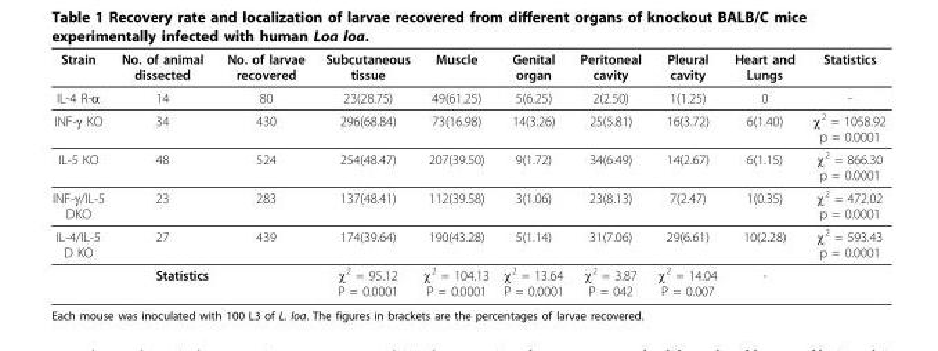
<table><thead><tr><td>Strain</td><td>No. of animal dissected</td><td>No. of larvae recovered</td><td>Subcutaneous tissue</td><td>Muscle</td><td>Genital organ</td><td>Peritoneal cavity</td><td>Pleural cavity</td><td>Heart and Lungs</td><td>Statistics</td></tr></thead><tbody><tr><td>IL-4 R-α</td><td>14</td><td>80</td><td>23(28.75)</td><td>49(61.25)</td><td>5(6.25)</td><td>2(2.50)</td><td>1(1.25)</td><td>0</td><td>-</td></tr><tr><td>INF-γ KO</td><td>34</td><td>430</td><td>296(68.84)</td><td>73(16.98)</td><td>14(3.26)</td><td>25(5.81)</td><td>16(3.72)</td><td>6(1.40)</td><td>χ<sup>2</sup> = 1058.92 p = 0.0001</td></tr><tr><td>IL-5 KO</td><td>48</td><td>524</td><td>254(48.47)</td><td>207(39.50)</td><td>9(1.72)</td><td>34(6.49)</td><td>14(2.67)</td><td>6(1.15)</td><td>χ<sup>2</sup> = 866.30 p = 0.0001</td></tr><tr><td>INF-γ/IL-5 DKO</td><td>23</td><td>283</td><td>137(48.41)</td><td>112(39.58)</td><td>3(1.06)</td><td>23(8.13)</td><td>7(2.47)</td><td>1(0.35)</td><td>χ<sup>2</sup> = 472.02 p = 0.0001</td></tr><tr><td>IL-4/IL-5 D KO</td><td>27</td><td>439</td><td>174(39.64)</td><td>190(43.28)</td><td>5(1.14)</td><td>31(7.06)</td><td>29(6.61)</td><td>10(2.28)</td><td>χ<sup>2</sup> = 593.43 p = 0.0001</td></tr><tr><td colspan="3">Statistics</td><td>χ<sup>2</sup> = 95.12 P = 0.0001</td><td>χ<sup>2</sup> = 104.13 P = 0.0001</td><td>χ<sup>2</sup> = 13.64 P = 0.0001</td><td>χ<sup>2</sup> = 3.87 P = 042</td><td>χ<sup>2</sup> = 14.04 P = 0.007</td><td>-</td><td></td></tr></tbody></table>